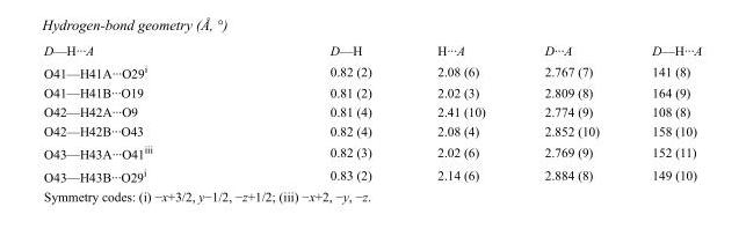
<table><tbody><tr><td>D—H···A</td><td>D—H</td><td>H···A</td><td>D···A</td><td>D—H···A</td></tr><tr><td>O41—H41A···O29<sup>i</sup></td><td>0.82 (2)</td><td>2.08 (6)</td><td>2.767 (7)</td><td>141 (8)</td></tr><tr><td>O41—H41B···O19</td><td>0.81 (2)</td><td>2.02 (3)</td><td>2.809 (8)</td><td>164 (9)</td></tr><tr><td>O42—H42A···O9</td><td>0.81 (4)</td><td>2.41 (10)</td><td>2.774 (9)</td><td>108 (8)</td></tr><tr><td>O42—H42B···O43</td><td>0.82 (4)</td><td>2.08 (4)</td><td>2.852 (10)</td><td>158 (10)</td></tr><tr><td>O43—H43A···O41<sup>iii</sup></td><td>0.82 (3)</td><td>2.02 (6)</td><td>2.769 (9)</td><td>152 (11)</td></tr><tr><td>O43—H43B···O29<sup>i</sup></td><td>0.83 (2)</td><td>2.14 (6)</td><td>2.884 (8)</td><td>149 (10)</td></tr></tbody></table>